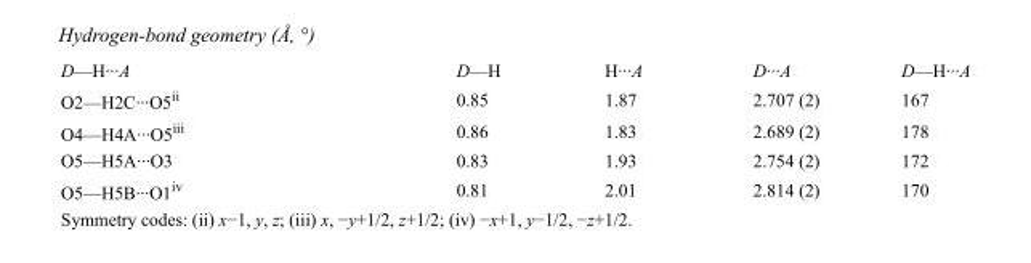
<table><tbody><tr><td>D—H···A</td><td>D—H</td><td>H···A</td><td>D···A</td><td>D—H···A</td></tr><tr><td>O2—H2C···O5<sup>ii</sup></td><td>0.85</td><td>1.87</td><td>2.707 (2)</td><td>167</td></tr><tr><td>O4—H4A···O5<sup>iii</sup></td><td>0.86</td><td>1.83</td><td>2.689 (2)</td><td>178</td></tr><tr><td>O5—H5A···O3</td><td>0.83</td><td>1.93</td><td>2.754 (2)</td><td>172</td></tr><tr><td>O5—H5B···O1<sup>iv</sup></td><td>0.81</td><td>2.01</td><td>2.814 (2)</td><td>170</td></tr></tbody></table>